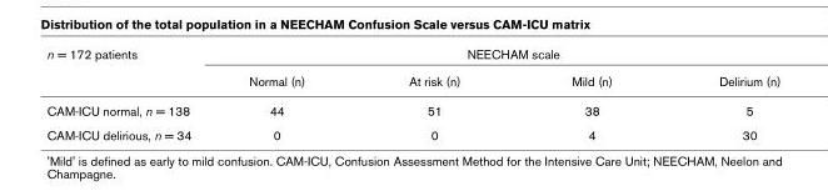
<table><thead><tr><td rowspan="2">n = 172 patients</td><td colspan="4">NEECHAM scale</td></tr><tr><td>Normal (n)</td><td>At risk (n)</td><td>Mild (n)</td><td>Delirium (n)</td></tr></thead><tbody><tr><td>CAM-ICU normal, n = 138</td><td>44</td><td>51</td><td>38</td><td>5</td></tr><tr><td>CAM-ICU delirious, n = 34</td><td>0</td><td>0</td><td>4</td><td>30</td></tr></tbody></table>